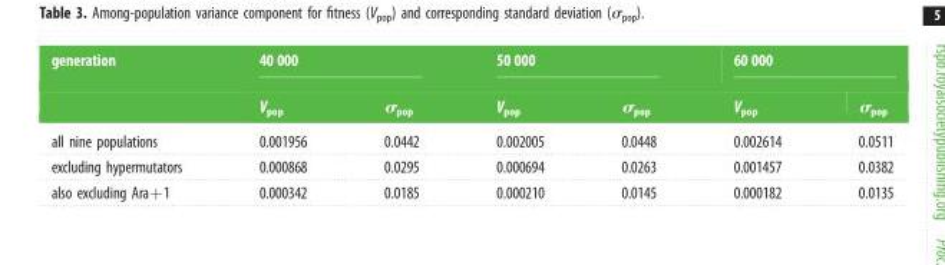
<table><thead><tr><td rowspan="2">generation</td><td colspan="2">40 000</td><td colspan="2">50 000</td><td colspan="2">60 000</td></tr><tr><td>V<sub>pop</sub></td><td>σ<sub>pop</sub></td><td>V<sub>pop</sub></td><td>σ<sub>pop</sub></td><td>V<sub>pop</sub></td><td>σ<sub>pop</sub></td></tr></thead><tbody><tr><td>all nine populations</td><td>0.001956</td><td>0.0442</td><td>0.002005</td><td>0.0448</td><td>0.002614</td><td>0.0511</td></tr><tr><td>excluding hypermutators</td><td>0.000868</td><td>0.0295</td><td>0.000694</td><td>0.0263</td><td>0.001457</td><td>0.0382</td></tr><tr><td>also excluding Ara+1</td><td>0.000342</td><td>0.0185</td><td>0.000210</td><td>0.0145</td><td>0.000182</td><td>0.0135</td></tr></tbody></table>